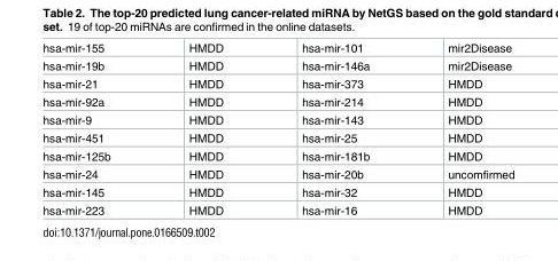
<table><tbody><tr><td>hsa-mir-155</td><td>HMDD</td><td>hsa-mir-101</td><td>mir2Disease</td></tr><tr><td>hsa-mir-19b</td><td>HMDD</td><td>hsa-mir-146a</td><td>mir2Disease</td></tr><tr><td>hsa-mir-21</td><td>HMDD</td><td>hsa-mir-373</td><td>HMDD</td></tr><tr><td>hsa-mir-92a</td><td>HMDD</td><td>hsa-mir-214</td><td>HMDD</td></tr><tr><td>hsa-mir-9</td><td>HMDD</td><td>hsa-mir-143</td><td>HMDD</td></tr><tr><td>hsa-mir-451</td><td>HMDD</td><td>hsa-mir-25</td><td>HMDD</td></tr><tr><td>hsa-mir-125b</td><td>HMDD</td><td>hsa-mir-181b</td><td>HMDD</td></tr><tr><td>hsa-mir-24</td><td>HMDD</td><td>hsa-mir-20b</td><td>uncomfirmed</td></tr><tr><td>hsa-mir-145</td><td>HMDD</td><td>hsa-mir-32</td><td>HMDD</td></tr><tr><td>hsa-mir-223</td><td>HMDD</td><td>hsa-mir-16</td><td>HMDD</td></tr></tbody></table>